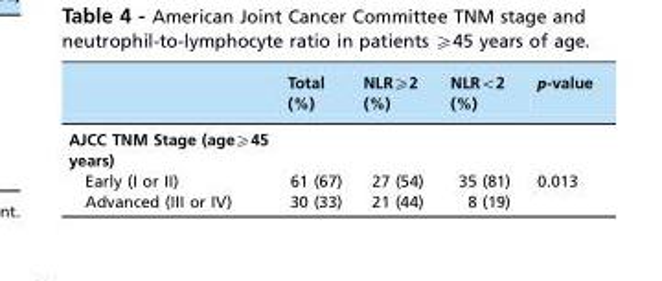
<table><thead><tr><td></td><td>Total (%)</td><td>NLR≥2 (%)</td><td>NLR&lt;2 (%)</td><td>p-value</td></tr></thead><tbody><tr><td colspan="5">AJCC TNM Stage (age≥45 years)</td></tr><tr><td>Early (I or II)</td><td>61 (67)</td><td>27 (54)</td><td>35 (81)</td><td>0.013</td></tr><tr><td>Advanced (III or IV)</td><td>30 (33)</td><td>21 (44)</td><td>8 (19)</td><td></td></tr></tbody></table>